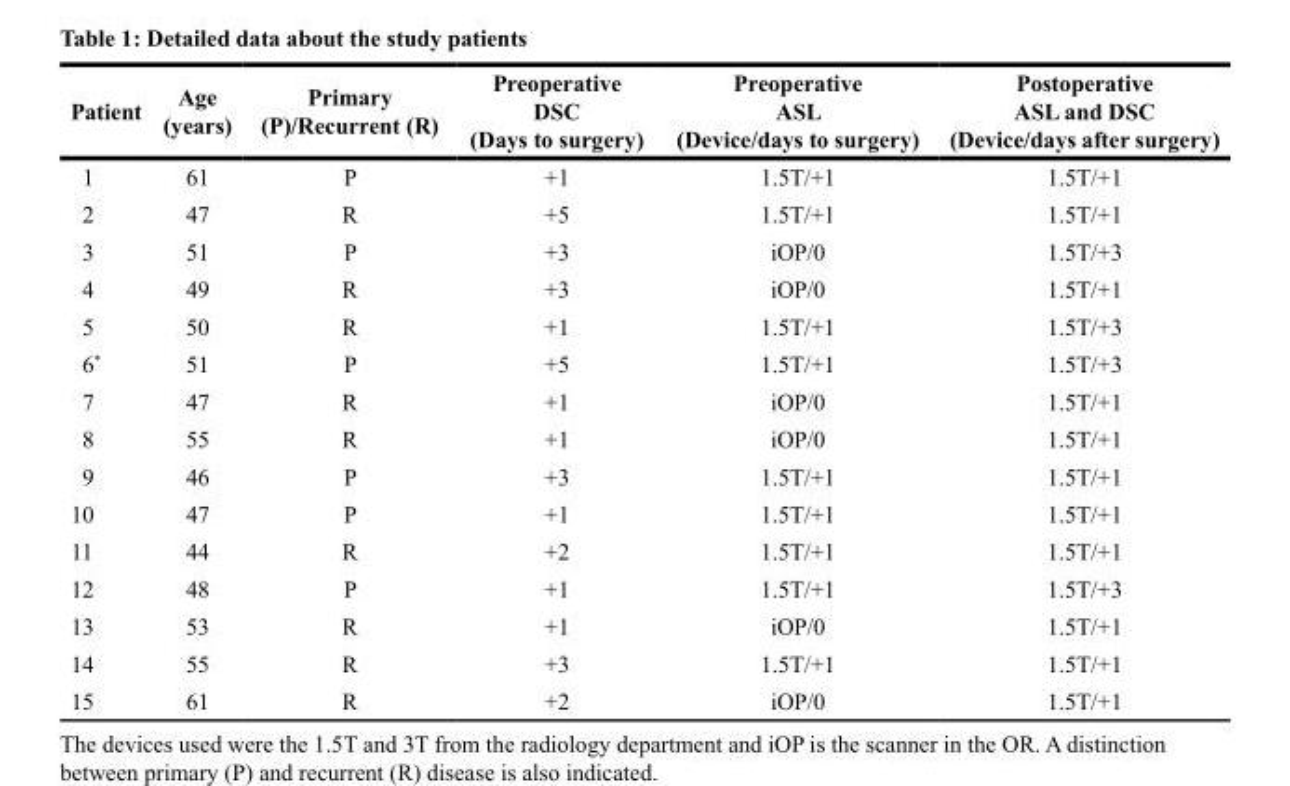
<table><thead><tr><td>Patient</td><td>Age (years)</td><td>Primary (P)/Recurrent (R)</td><td>Preoperative DSC (Days to surgery)</td><td>Preoperative ASL (Device/days to surgery)</td><td>Postoperative ASL and DSC (Device/days after surgery)</td></tr></thead><tbody><tr><td>1</td><td>61</td><td>P</td><td>+1</td><td>1.5T/+1</td><td>1.5T/+1</td></tr><tr><td>2</td><td>47</td><td>R</td><td>+5</td><td>1.5T/+1</td><td>1.5T/+1</td></tr><tr><td>3</td><td>51</td><td>P</td><td>+3</td><td>iOP/0</td><td>1.5T/+3</td></tr><tr><td>4</td><td>49</td><td>R</td><td>+3</td><td>iOP/0</td><td>1.5T/+1</td></tr><tr><td>5</td><td>50</td><td>R</td><td>+1</td><td>1.5T/+1</td><td>1.5T/+3</td></tr><tr><td>6*</td><td>51</td><td>P</td><td>+5</td><td>1.5T/+1</td><td>1.5T/+3</td></tr><tr><td>7</td><td>47</td><td>R</td><td>+1</td><td>iOP/0</td><td>1.5T/+1</td></tr><tr><td>8</td><td>55</td><td>R</td><td>+1</td><td>iOP/0</td><td>1.5T/+1</td></tr><tr><td>9</td><td>46</td><td>P</td><td>+3</td><td>1.5T/+1</td><td>1.5T/+1</td></tr><tr><td>10</td><td>47</td><td>P</td><td>+1</td><td>1.5T/+1</td><td>1.5T/+1</td></tr><tr><td>11</td><td>44</td><td>R</td><td>+2</td><td>1.5T/+1</td><td>1.5T/+1</td></tr><tr><td>12</td><td>48</td><td>P</td><td>+1</td><td>1.5T/+1</td><td>1.5T/+3</td></tr><tr><td>13</td><td>53</td><td>R</td><td>+1</td><td>iOP/0</td><td>1.5T/+1</td></tr><tr><td>14</td><td>55</td><td>R</td><td>+3</td><td>1.5T/+1</td><td>1.5T/+1</td></tr><tr><td>15</td><td>61</td><td>R</td><td>+2</td><td>iOP/0</td><td>1.5T/+1</td></tr></tbody></table>